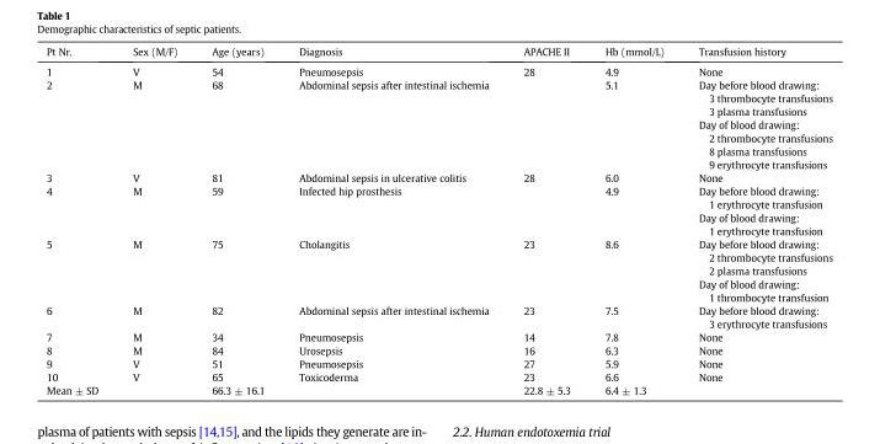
<table><thead><tr><td>Pt Nr.</td><td>Sex (M/F)</td><td>Age (years)</td><td>Diagnosis</td><td>APACHE II</td><td>Hb (mmol/L)</td><td>Transfusion history</td></tr></thead><tbody><tr><td>1</td><td>V</td><td>54</td><td>Pneumosepsis</td><td>28</td><td>4.9</td><td>None</td></tr><tr><td>2</td><td>M</td><td>68</td><td>Abdominal sepsis after intestinal ischemia</td><td></td><td>5.1</td><td>Day before blood drawing: 3 thrombocyte transfusions 3 plasma transfusions Day of blood drawing: 2 thrombocyte transfusions 8 plasma transfusions 9 erythrocyte transfusions</td></tr><tr><td>3</td><td>V</td><td>81</td><td>Abdominal sepsis in ulcerative colitis</td><td>28</td><td>6.0</td><td>None</td></tr><tr><td>4</td><td>M</td><td>59</td><td>Infected hip prosthesis</td><td></td><td>4.9</td><td>Day before blood drawing: 1 erythrocyte transfusion Day of blood drawing: 1 erythrocyte transfusion</td></tr><tr><td>5</td><td>M</td><td>75</td><td>Cholangitis</td><td>23</td><td>8.6</td><td>Day before blood drawing: 2 thrombocyte transfusions 2 plasma transfusions Day of blood drawing: 1 thrombocyte transfusion</td></tr><tr><td>6</td><td>M</td><td>82</td><td>Abdominal sepsis after intestinal ischemia</td><td>23</td><td>7.5</td><td>Day before blood drawing: 3 erythrocyte transfusions</td></tr><tr><td>7</td><td>M</td><td>34</td><td>Pneumosepsis</td><td>14</td><td>7.8</td><td>None</td></tr><tr><td>8</td><td>M</td><td>84</td><td>Urosepsis</td><td>16</td><td>6.3</td><td>None</td></tr><tr><td>9</td><td>V</td><td>51</td><td>Pneumosepsis</td><td>27</td><td>5.9</td><td>None</td></tr><tr><td>10</td><td>V</td><td>65</td><td>Toxicoderma</td><td>23</td><td>6.6</td><td>None</td></tr><tr><td>Mean ± SD</td><td></td><td>66.3 ± 16.1</td><td></td><td>22.8 ± 5.3</td><td>6.4 ± 1.3</td><td></td></tr></tbody></table>